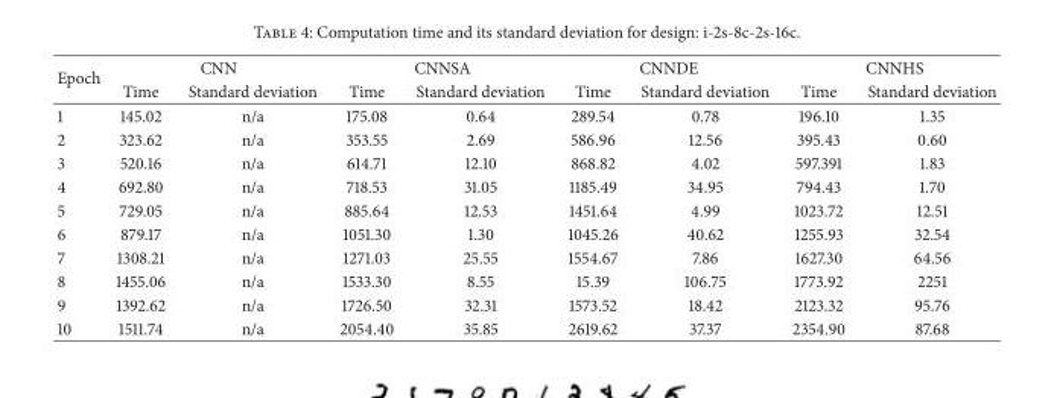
<table><thead><tr><td rowspan="2">Epoch</td><td colspan="2">CNN</td><td colspan="2">CNNSA</td><td colspan="2">CNNDE</td><td colspan="2">CNNHS</td></tr><tr><td>Time</td><td>Standard deviation</td><td>Time</td><td>Standard deviation</td><td>Time</td><td>Standard deviation</td><td>Time</td><td>Standard deviation</td></tr></thead><tbody><tr><td>1</td><td>145.02</td><td>n/a</td><td>175.08</td><td>0.64</td><td>289.54</td><td>0.78</td><td>196.10</td><td>1.35</td></tr><tr><td>2</td><td>323.62</td><td>n/a</td><td>353.55</td><td>2.69</td><td>586.96</td><td>12.56</td><td>395.43</td><td>0.60</td></tr><tr><td>3</td><td>520.16</td><td>n/a</td><td>614.71</td><td>12.10</td><td>868.82</td><td>4.02</td><td>597.391</td><td>1.83</td></tr><tr><td>4</td><td>692.80</td><td>n/a</td><td>718.53</td><td>31.05</td><td>1185.49</td><td>34.95</td><td>794.43</td><td>1.70</td></tr><tr><td>5</td><td>729.05</td><td>n/a</td><td>885.64</td><td>12.53</td><td>1451.64</td><td>4.99</td><td>1023.72</td><td>12.51</td></tr><tr><td>6</td><td>879.17</td><td>n/a</td><td>1051.30</td><td>1.30</td><td>1045.26</td><td>40.62</td><td>1255.93</td><td>32.54</td></tr><tr><td>7</td><td>1308.21</td><td>n/a</td><td>1271.03</td><td>25.55</td><td>1554.67</td><td>7.86</td><td>1627.30</td><td>64.56</td></tr><tr><td>8</td><td>1455.06</td><td>n/a</td><td>1533.30</td><td>8.55</td><td>15.39</td><td>106.75</td><td>1773.92</td><td>2251</td></tr><tr><td>9</td><td>1392.62</td><td>n/a</td><td>1726.50</td><td>32.31</td><td>1573.52</td><td>18.42</td><td>2123.32</td><td>95.76</td></tr><tr><td>10</td><td>1511.74</td><td>n/a</td><td>2054.40</td><td>35.85</td><td>2619.62</td><td>37.37</td><td>2354.90</td><td>87.68</td></tr></tbody></table>